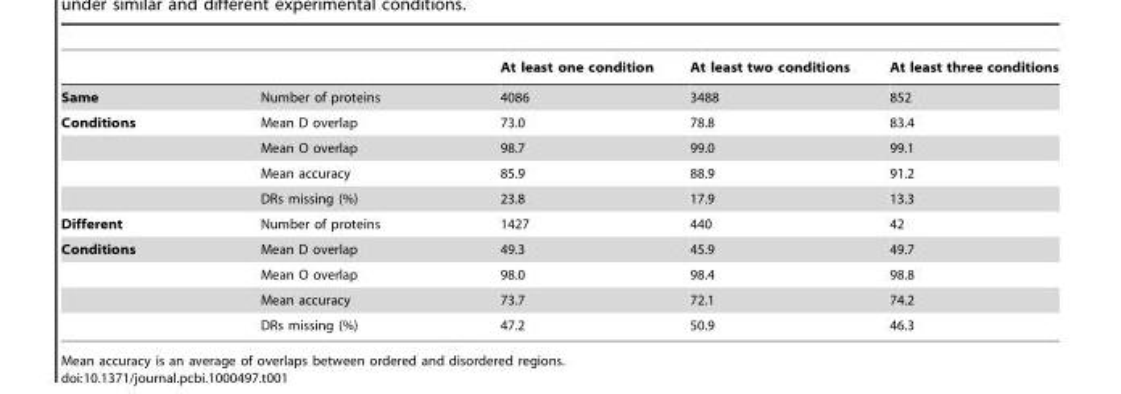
<table><thead><tr><td></td><td></td><td>At least one condition</td><td>At least two conditions</td><td>At least three conditions</td></tr></thead><tbody><tr><td>Same</td><td>Number of proteins</td><td>4086</td><td>3488</td><td>852</td></tr><tr><td rowspan="4">Conditions</td><td>Mean D overlap</td><td>73.0</td><td>78.8</td><td>83.4</td></tr><tr><td>Mean O overlap</td><td>98.7</td><td>99.0</td><td>99.1</td></tr><tr><td>Mean accuracy</td><td>85.9</td><td>88.9</td><td>91.2</td></tr><tr><td>DRs missing (%)</td><td>23.8</td><td>17.9</td><td>13.3</td></tr><tr><td>Different</td><td>Number of proteins</td><td>1427</td><td>440</td><td>42</td></tr><tr><td rowspan="4">Conditions</td><td>Mean D overlap</td><td>49.3</td><td>45.9</td><td>49.7</td></tr><tr><td>Mean O overlap</td><td>98.0</td><td>98.4</td><td>98.8</td></tr><tr><td>Mean accuracy</td><td>73.7</td><td>72.1</td><td>74.2</td></tr><tr><td>DRs missing (%)</td><td>47.2</td><td>50.9</td><td>46.3</td></tr></tbody></table>